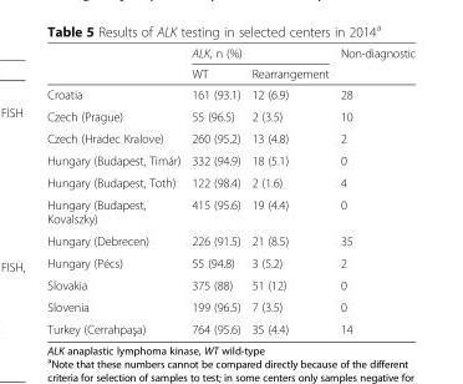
<table><thead><tr><td rowspan="2"></td><td colspan="2">ALK, n (%)</td><td rowspan="2">Non-diagnostic</td></tr><tr><td>WT</td><td>Rearrangement</td></tr></thead><tbody><tr><td>Croatia</td><td>161 (93.1)</td><td>12 (6.9)</td><td>28</td></tr><tr><td>Czech (Prague)</td><td>55 (96.5)</td><td>2 (3.5)</td><td>10</td></tr><tr><td>Czech (Hradec Kralove)</td><td>260 (95.2)</td><td>13 (4.8)</td><td>2</td></tr><tr><td>Hungary (Budapest, Timár)</td><td>332 (94.9)</td><td>18 (5.1)</td><td>0</td></tr><tr><td>Hungary (Budapest, Toth)</td><td>122 (98.4)</td><td>2 (1.6)</td><td>4</td></tr><tr><td>Hungary (Budapest, Kovalszky)</td><td>415 (95.6)</td><td>19 (4.4)</td><td>0</td></tr><tr><td>Hungary (Debrecen)</td><td>226 (91.5)</td><td>21 (8.5)</td><td>35</td></tr><tr><td>Hungary (Pécs)</td><td>55 (94.8)</td><td>3 (5.2)</td><td>2</td></tr><tr><td>Slovakia</td><td>375 (88)</td><td>51 (12)</td><td>0</td></tr><tr><td>Slovenia</td><td>199 (96.5)</td><td>7 (3.5)</td><td>0</td></tr><tr><td>Turkey (Cerrahpaşa)</td><td>764 (95.6)</td><td>35 (4.4)</td><td>14</td></tr></tbody></table>